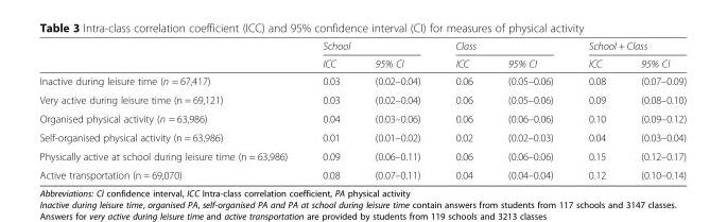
<table><thead><tr><td rowspan="2"></td><td colspan="2">School</td><td colspan="2">Class</td><td colspan="2">School + Class</td></tr><tr><td>ICC</td><td>95% CI</td><td>ICC</td><td>95% CI</td><td>ICC</td><td>95% CI</td></tr></thead><tbody><tr><td>Inactive during leisure time (n = 67,417)</td><td>0.03</td><td>(0.02–0.04)</td><td>0.06</td><td>(0.05–0.06)</td><td>0.08</td><td>(0.07–0.09)</td></tr><tr><td>Very active during leisure time (n = 69,121)</td><td>0.03</td><td>(0.02–0.04)</td><td>0.06</td><td>(0.05–0.06)</td><td>0.09</td><td>(0.08–0.10)</td></tr><tr><td>Organised physical activity (n = 63,986)</td><td>0.04</td><td>(0.03–0.06)</td><td>0.06</td><td>(0.06–0.06)</td><td>0.10</td><td>(0.09–0.12)</td></tr><tr><td>Self-organised physical activity (n = 63,986)</td><td>0.01</td><td>(0.01–0.02)</td><td>0.02</td><td>(0.02–0.03)</td><td>0.04</td><td>(0.03–0.04)</td></tr><tr><td>Physically active at school during leisure time (n = 63,986)</td><td>0.09</td><td>(0.06–0.11)</td><td>0.06</td><td>(0.06–0.06)</td><td>0.15</td><td>(0.12–0.17)</td></tr><tr><td>Active transportation (n = 69,070)</td><td>0.08</td><td>(0.07–0.11)</td><td>0.04</td><td>(0.04–0.04)</td><td>0.12</td><td>(0.10–0.14)</td></tr></tbody></table>